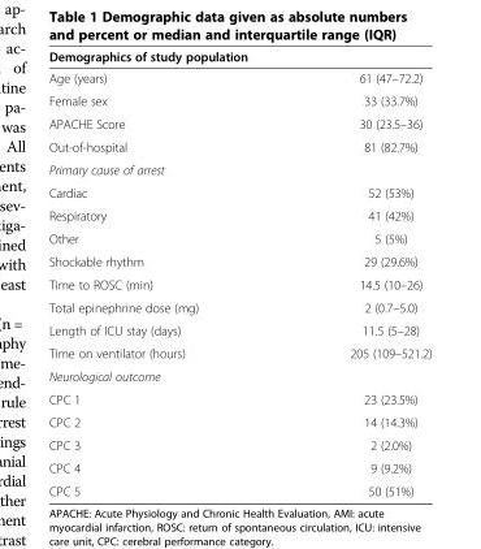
<table><thead><tr><td>Demographics of study population</td><td></td></tr></thead><tbody><tr><td>Age (years)</td><td>61 (47–72.2)</td></tr><tr><td>Female sex</td><td>33 (33.7%)</td></tr><tr><td>APACHE Score</td><td>30 (23.5–36)</td></tr><tr><td>Out-of-hospital</td><td>81 (82.7%)</td></tr><tr><td colspan="2">Primary cause of arrest</td></tr><tr><td>Cardiac</td><td>52 (53%)</td></tr><tr><td>Respiratory</td><td>41 (42%)</td></tr><tr><td>Other</td><td>5 (5%)</td></tr><tr><td>Shockable rhythm</td><td>29 (29.6%)</td></tr><tr><td>Time to ROSC (min)</td><td>14.5 (10–26)</td></tr><tr><td>Total epinephrine dose (mg)</td><td>2 (0.7–5.0)</td></tr><tr><td>Length of ICU stay (days)</td><td>11.5 (5–28)</td></tr><tr><td>Time on ventilator (hours)</td><td>205 (109–521.2)</td></tr><tr><td colspan="2">Neurological outcome</td></tr><tr><td>CPC 1</td><td>23 (23.5%)</td></tr><tr><td>CPC 2</td><td>14 (14.3%)</td></tr><tr><td>CPC 3</td><td>2 (2.0%)</td></tr><tr><td>CPC 4</td><td>9 (9.2%)</td></tr><tr><td>CPC 5</td><td>50 (51%)</td></tr></tbody></table>